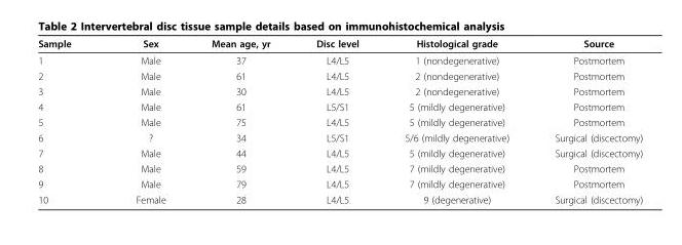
<table><thead><tr><td>Sample</td><td>Sex</td><td>Mean age, yr</td><td>Disc level</td><td>Histological grade</td><td>Source</td></tr></thead><tbody><tr><td>1</td><td>Male</td><td>37</td><td>L4/L5</td><td>1 (nondegenerative)</td><td>Postmortem</td></tr><tr><td>2</td><td>Male</td><td>61</td><td>L4/L5</td><td>2 (nondegenerative)</td><td>Postmortem</td></tr><tr><td>3</td><td>Male</td><td>30</td><td>L4/L5</td><td>2 (nondegenerative)</td><td>Postmortem</td></tr><tr><td>4</td><td>Male</td><td>61</td><td>L5/S1</td><td>5 (mildly degenerative)</td><td>Postmortem</td></tr><tr><td>5</td><td>Male</td><td>75</td><td>L4/L5</td><td>5 (mildly degenerative)</td><td>Postmortem</td></tr><tr><td>6</td><td>?</td><td>34</td><td>L5/S1</td><td>5/6 (mildly degenerative)</td><td>Surgical (discectomy)</td></tr><tr><td>7</td><td>Male</td><td>44</td><td>L4/L5</td><td>5 (mildly degenerative)</td><td>Surgical (discectomy)</td></tr><tr><td>8</td><td>Male</td><td>59</td><td>L4/L5</td><td>7 (mildly degenerative)</td><td>Postmortem</td></tr><tr><td>9</td><td>Male</td><td>79</td><td>L4/L5</td><td>7 (mildly degenerative)</td><td>Postmortem</td></tr><tr><td>10</td><td>Female</td><td>28</td><td>L4/L5</td><td>9 (degenerative)</td><td>Surgical (discectomy)</td></tr></tbody></table>